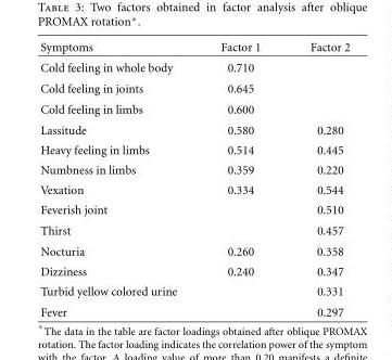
<table><thead><tr><td>Symptoms</td><td>Factor 1</td><td>Factor 2</td></tr></thead><tbody><tr><td>Cold feeling in whole body</td><td>0.710</td><td></td></tr><tr><td>Cold feeling in joints</td><td>0.645</td><td></td></tr><tr><td>Cold feeling in limbs</td><td>0.600</td><td></td></tr><tr><td>Lassitude</td><td>0.580</td><td>0.280</td></tr><tr><td>Heavy feeling in limbs</td><td>0.514</td><td>0.445</td></tr><tr><td>Numbness in limbs</td><td>0.359</td><td>0.220</td></tr><tr><td>Vexation</td><td>0.334</td><td>0.544</td></tr><tr><td>Feverish joint</td><td></td><td>0.510</td></tr><tr><td>Thirst</td><td></td><td>0.457</td></tr><tr><td>Nocturia</td><td>0.260</td><td>0.358</td></tr><tr><td>Dizziness</td><td>0.240</td><td>0.347</td></tr><tr><td>Turbid yellow colored urine</td><td></td><td>0.331</td></tr><tr><td>Fever</td><td></td><td>0.297</td></tr></tbody></table>